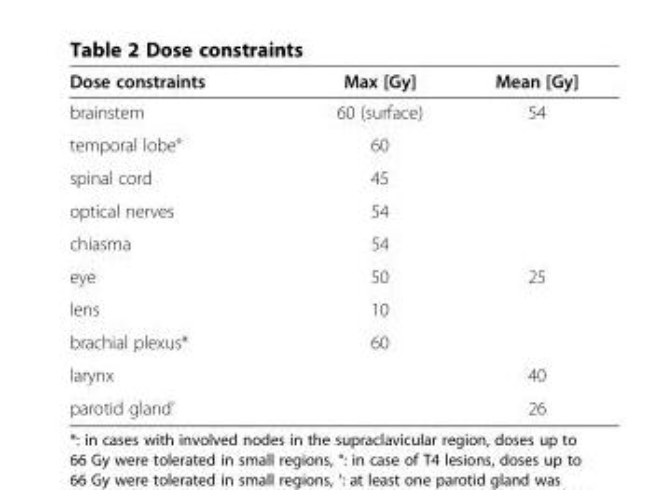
<table><thead><tr><td>Dose constraints</td><td>Max [Gy]</td><td>Mean [Gy]</td></tr></thead><tbody><tr><td>brainstem</td><td>60 (surface)</td><td>54</td></tr><tr><td>temporal lobe°</td><td>60</td><td></td></tr><tr><td>spinal cord</td><td>45</td><td></td></tr><tr><td>optical nerves</td><td>54</td><td></td></tr><tr><td>chiasma</td><td>54</td><td></td></tr><tr><td>eye</td><td>50</td><td>25</td></tr><tr><td>lens</td><td>10</td><td></td></tr><tr><td>brachial plexus*</td><td>60</td><td></td></tr><tr><td>larynx</td><td></td><td>40</td></tr><tr><td>parotid gland’</td><td></td><td>26</td></tr></tbody></table>